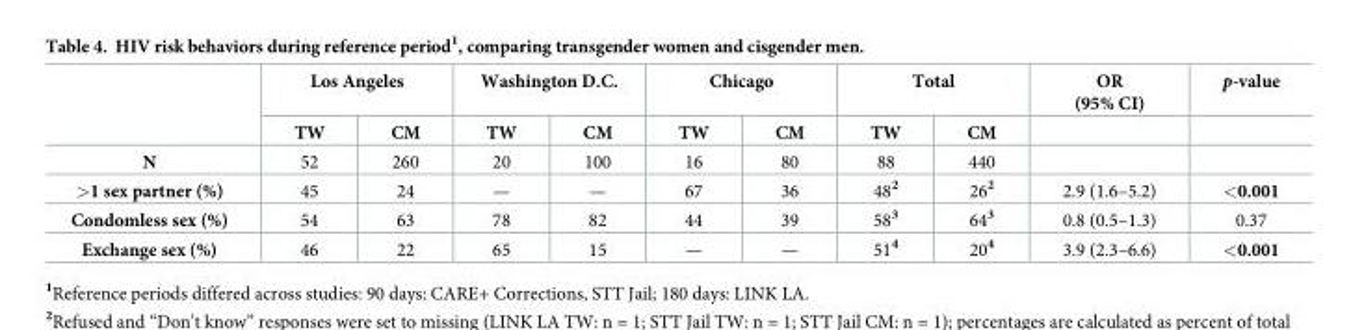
<table><thead><tr><td rowspan="2"></td><td colspan="2">Los Angeles</td><td colspan="2">Washington D.C.</td><td colspan="2">Chicago</td><td colspan="2">Total</td><td rowspan="2">OR (95% CI)</td><td rowspan="2">p-value</td></tr><tr><td>TW</td><td>CM</td><td>TW</td><td>CM</td><td>TW</td><td>CM</td><td>TW</td><td>CM</td></tr></thead><tbody><tr><td>N</td><td>52</td><td>260</td><td>20</td><td>100</td><td>16</td><td>80</td><td>88</td><td>440</td><td></td><td></td></tr><tr><td>&gt;1 sex partner (%)</td><td>45</td><td>24</td><td>—</td><td>—</td><td>67</td><td>36</td><td>48<sup>2</sup></td><td>26<sup>2</sup></td><td>2.9 (1.6–5.2)</td><td>&lt;0.001</td></tr><tr><td>Condomless sex (%)</td><td>54</td><td>63</td><td>78</td><td>82</td><td>44</td><td>39</td><td>58<sup>3</sup></td><td>64<sup>3</sup></td><td>0.8 (0.5–1.3)</td><td>0.37</td></tr><tr><td>Exchange sex (%)</td><td>46</td><td>22</td><td>65</td><td>15</td><td>—</td><td>—</td><td>51<sup>4</sup></td><td>20<sup>4</sup></td><td>3.9 (2.3–6.6)</td><td>&lt;0.001</td></tr></tbody></table>